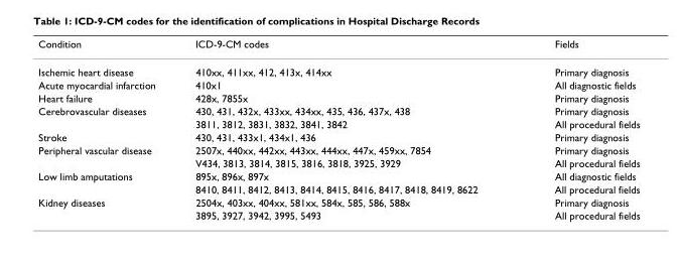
<table><thead><tr><td>Condition</td><td>ICD-9-CM codes</td><td>Fields</td></tr></thead><tbody><tr><td>Ischemic heart disease</td><td>410xx, 411xx, 412, 413x, 414xx</td><td>Primary diagnosis</td></tr><tr><td>Acute myocardial infarction</td><td>410x1</td><td>All diagnostic fields</td></tr><tr><td>Heart failure</td><td>428x, 7855x</td><td>Primary diagnosis</td></tr><tr><td rowspan="2">Cerebrovascular diseases</td><td>430, 431, 432x, 433xx, 434xx, 435, 436, 437x, 438</td><td>Primary diagnosis</td></tr><tr><td>3811, 3812, 3831, 3832, 3841, 3842</td><td>All procedural fields</td></tr><tr><td>Stroke</td><td>430, 431, 433x1, 434x1, 436</td><td>Primary diagnosis</td></tr><tr><td rowspan="2">Peripheral vascular disease</td><td>2507x, 440xx, 442xx, 443xx, 444xx, 447x, 459xx, 7854</td><td>Primary diagnosis</td></tr><tr><td>V434, 3813, 3814, 3815, 3816, 3818, 3925, 3929</td><td>All procedural fields</td></tr><tr><td rowspan="2">Low limb amputations</td><td>895x, 896x, 897x</td><td>All diagnostic fields</td></tr><tr><td>8410, 8411, 8412, 8413, 8414, 8415, 8416, 8417, 8418, 8419, 8622</td><td>All procedural fields</td></tr><tr><td rowspan="2">Kidney diseases</td><td>2504x, 403xx, 404xx, 581xx, 584x, 585, 586, 588x</td><td>Primary diagnosis</td></tr><tr><td>3895, 3927, 3942, 3995, 5493</td><td>All procedural fields</td></tr></tbody></table>